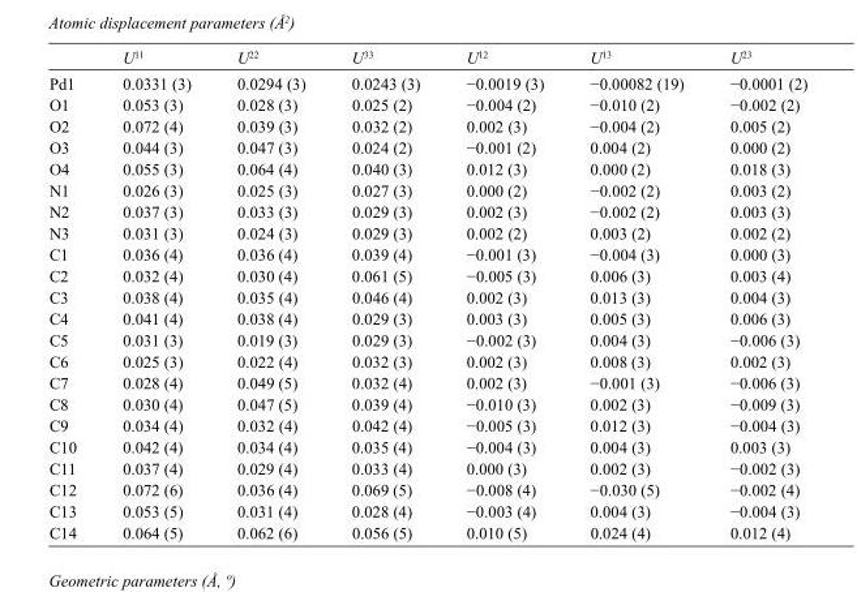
<table><thead><tr><td></td><td>U<sup>11</sup></td><td>U<sup>22</sup></td><td>U<sup>33</sup></td><td>U<sup>12</sup></td><td>U<sup>13</sup></td><td>U<sup>23</sup></td></tr></thead><tbody><tr><td>Pd1</td><td>0.0331 (3)</td><td>0.0294 (3)</td><td>0.0243 (3)</td><td>−0.0019 (3)</td><td>−0.00082 (19)</td><td>−0.0001 (2)</td></tr><tr><td>O1</td><td>0.053 (3)</td><td>0.028 (3)</td><td>0.025 (2)</td><td>−0.004 (2)</td><td>−0.010 (2)</td><td>−0.002 (2)</td></tr><tr><td>O2</td><td>0.072 (4)</td><td>0.039 (3)</td><td>0.032 (2)</td><td>0.002 (3)</td><td>−0.004 (2)</td><td>0.005 (2)</td></tr><tr><td>O3</td><td>0.044 (3)</td><td>0.047 (3)</td><td>0.024 (2)</td><td>−0.001 (2)</td><td>0.004 (2)</td><td>0.000 (2)</td></tr><tr><td>O4</td><td>0.055 (3)</td><td>0.064 (4)</td><td>0.040 (3)</td><td>0.012 (3)</td><td>0.000 (2)</td><td>0.018 (3)</td></tr><tr><td>N1</td><td>0.026 (3)</td><td>0.025 (3)</td><td>0.027 (3)</td><td>0.000 (2)</td><td>−0.002 (2)</td><td>0.003 (2)</td></tr><tr><td>N2</td><td>0.037 (3)</td><td>0.033 (3)</td><td>0.029 (3)</td><td>0.002 (3)</td><td>−0.002 (2)</td><td>0.003 (3)</td></tr><tr><td>N3</td><td>0.031 (3)</td><td>0.024 (3)</td><td>0.029 (3)</td><td>0.002 (2)</td><td>0.003 (2)</td><td>0.002 (2)</td></tr><tr><td>C1</td><td>0.036 (4)</td><td>0.036 (4)</td><td>0.039 (4)</td><td>−0.001 (3)</td><td>−0.004 (3)</td><td>0.000 (3)</td></tr><tr><td>C2</td><td>0.032 (4)</td><td>0.030 (4)</td><td>0.061 (5)</td><td>−0.005 (3)</td><td>0.006 (3)</td><td>0.003 (4)</td></tr><tr><td>C3</td><td>0.038 (4)</td><td>0.035 (4)</td><td>0.046 (4)</td><td>0.002 (3)</td><td>0.013 (3)</td><td>0.004 (3)</td></tr><tr><td>C4</td><td>0.041 (4)</td><td>0.038 (4)</td><td>0.029 (3)</td><td>0.003 (3)</td><td>0.005 (3)</td><td>0.006 (3)</td></tr><tr><td>C5</td><td>0.031 (3)</td><td>0.019 (3)</td><td>0.029 (3)</td><td>−0.002 (3)</td><td>0.004 (3)</td><td>−0.006 (3)</td></tr><tr><td>C6</td><td>0.025 (3)</td><td>0.022 (4)</td><td>0.032 (3)</td><td>0.002 (3)</td><td>0.008 (3)</td><td>0.002 (3)</td></tr><tr><td>C7</td><td>0.028 (4)</td><td>0.049 (5)</td><td>0.032 (4)</td><td>0.002 (3)</td><td>−0.001 (3)</td><td>−0.006 (3)</td></tr><tr><td>C8</td><td>0.030 (4)</td><td>0.047 (5)</td><td>0.039 (4)</td><td>−0.010 (3)</td><td>0.002 (3)</td><td>−0.009 (3)</td></tr><tr><td>C9</td><td>0.034 (4)</td><td>0.032 (4)</td><td>0.042 (4)</td><td>−0.005 (3)</td><td>0.012 (3)</td><td>−0.004 (3)</td></tr><tr><td>C10</td><td>0.042 (4)</td><td>0.034 (4)</td><td>0.035 (4)</td><td>−0.004 (3)</td><td>0.004 (3)</td><td>0.003 (3)</td></tr><tr><td>C11</td><td>0.037 (4)</td><td>0.029 (4)</td><td>0.033 (4)</td><td>0.000 (3)</td><td>0.002 (3)</td><td>−0.002 (3)</td></tr><tr><td>C12</td><td>0.072 (6)</td><td>0.036 (4)</td><td>0.069 (5)</td><td>−0.008 (4)</td><td>−0.030 (5)</td><td>−0.002 (4)</td></tr><tr><td>C13</td><td>0.053 (5)</td><td>0.031 (4)</td><td>0.028 (4)</td><td>−0.003 (4)</td><td>0.004 (3)</td><td>−0.004 (3)</td></tr><tr><td>C14</td><td>0.064 (5)</td><td>0.062 (6)</td><td>0.056 (5)</td><td>0.010 (5)</td><td>0.024 (4)</td><td>0.012 (4)</td></tr></tbody></table>